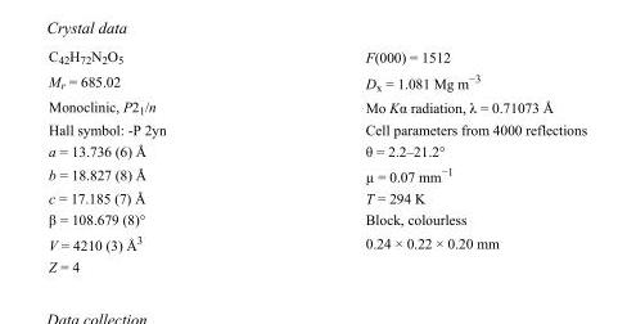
<table><tbody><tr><td>C<sub>42</sub>H<sub>72</sub>N<sub>2</sub>O<sub>5</sub></td><td>F(000) = 1512</td></tr><tr><td>M<sub>r</sub> = 685.02</td><td>D<sub>x</sub> = 1.081 Mg m<sup>−3</sup></td></tr><tr><td>Monoclinic, P2<sub>1</sub>/n</td><td>Mo Kα radiation, λ = 0.71073 Å</td></tr><tr><td>Hall symbol: -P 2yn</td><td>Cell parameters from 4000 reflections</td></tr><tr><td>a = 13.736 (6) Å</td><td>θ = 2.2–21.2°</td></tr><tr><td>b = 18.827 (8) Å</td><td>µ = 0.07 mm<sup>−1</sup></td></tr><tr><td>c = 17.185 (7) Å</td><td>T = 294 K</td></tr><tr><td>β = 108.679 (8)°</td><td>Block, colourless</td></tr><tr><td>V = 4210 (3) Å<sup>3</sup></td><td>0.24 × 0.22 × 0.20 mm</td></tr><tr><td>Z = 4</td><td></td></tr></tbody></table>